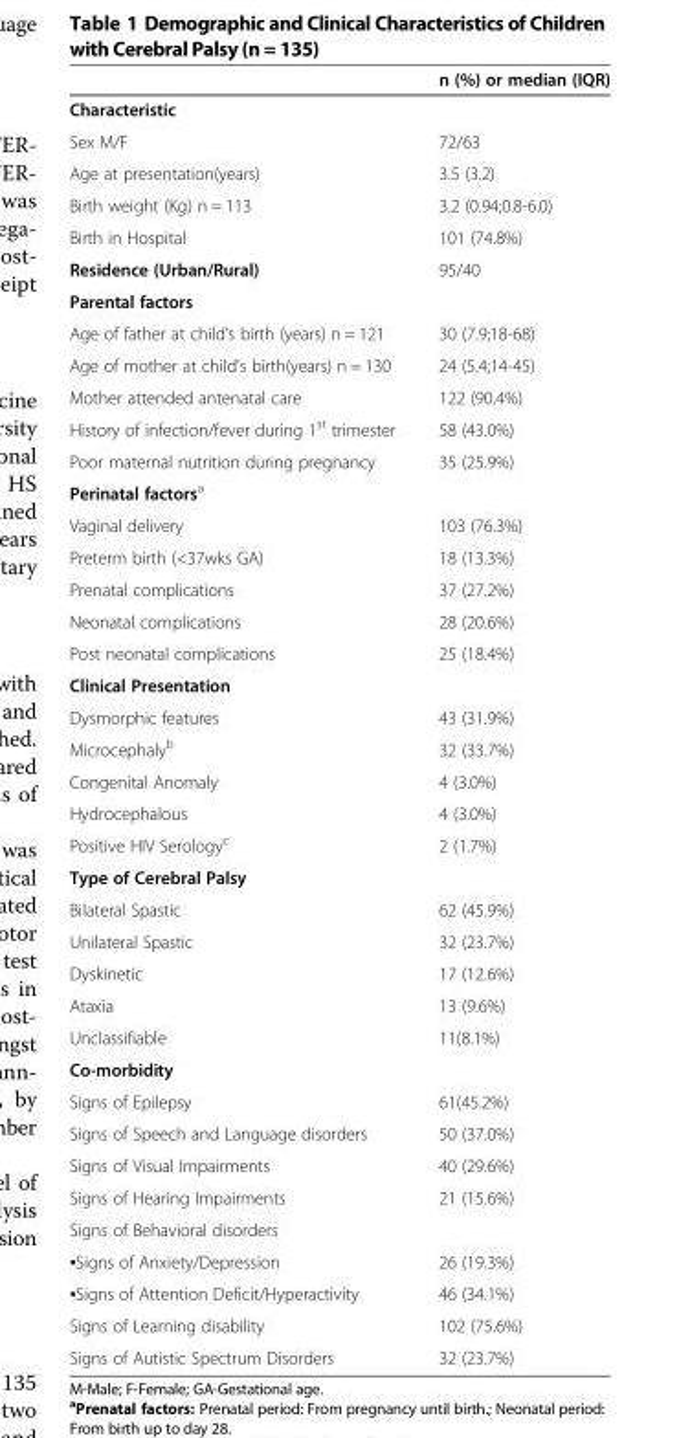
<table><thead><tr><td></td><td>n (%) or median (IQR)</td></tr></thead><tbody><tr><td colspan="2">Characteristic</td></tr><tr><td>Sex M/F</td><td>72/63</td></tr><tr><td>Age at presentation(years)</td><td>3.5 (3.2)</td></tr><tr><td>Birth weight (Kg) n = 113</td><td>3.2 (0.94;0.8-6.0)</td></tr><tr><td>Birth in Hospital</td><td>101 (74.8%)</td></tr><tr><td>Residence (Urban/Rural)</td><td>95/40</td></tr><tr><td colspan="2">Parental factors</td></tr><tr><td>Age of father at child’s birth (years) n = 121</td><td>30 (7.9;18-68)</td></tr><tr><td>Age of mother at child’s birth(years) n = 130</td><td>24 (5.4;14-45)</td></tr><tr><td>Mother attended antenatal care</td><td>122 (90.4%)</td></tr><tr><td>History of infection/fever during 1<sup>st</sup> trimester</td><td>58 (43.0%)</td></tr><tr><td>Poor maternal nutrition during pregnancy</td><td>35 (25.9%)</td></tr><tr><td colspan="2">Perinatal factors<sup>a</sup></td></tr><tr><td>Vaginal delivery</td><td>103 (76.3%)</td></tr><tr><td>Preterm birth (&lt;37wks GA)</td><td>18 (13.3%)</td></tr><tr><td>Prenatal complications</td><td>37 (27.2%)</td></tr><tr><td>Neonatal complications</td><td>28 (20.6%)</td></tr><tr><td>Post neonatal complications</td><td>25 (18.4%)</td></tr><tr><td colspan="2">Clinical Presentation</td></tr><tr><td>Dysmorphic features</td><td>43 (31.9%)</td></tr><tr><td>Microcephaly<sup>b</sup></td><td>32 (33.7%)</td></tr><tr><td>Congenital Anomaly</td><td>4 (3.0%)</td></tr><tr><td>Hydrocephalous</td><td>4 (3.0%)</td></tr><tr><td>Positive HIV Serology<sup>c</sup></td><td>2 (1.7%)</td></tr><tr><td colspan="2">Type of Cerebral Palsy</td></tr><tr><td>Bilateral Spastic</td><td>62 (45.9%)</td></tr><tr><td>Unilateral Spastic</td><td>32 (23.7%)</td></tr><tr><td>Dyskinetic</td><td>17 (12.6%)</td></tr><tr><td>Ataxia</td><td>13 (9.6%)</td></tr><tr><td>Unclassifiable</td><td>11(8.1%)</td></tr><tr><td colspan="2">Co-morbidity</td></tr><tr><td>Signs of Epilepsy</td><td>61(45.2%)</td></tr><tr><td>Signs of Speech and Language disorders</td><td>50 (37.0%)</td></tr><tr><td>Signs of Visual Impairments</td><td>40 (29.6%)</td></tr><tr><td>Signs of Hearing Impairments</td><td>21 (15.6%)</td></tr><tr><td colspan="2">Signs of Behavioral disorders</td></tr><tr><td>▪Signs of Anxiety/Depression</td><td>26 (19.3%)</td></tr><tr><td>▪Signs of Attention Deficit/Hyperactivity</td><td>46 (34.1%)</td></tr><tr><td>Signs of Learning disability</td><td>102 (75.6%)</td></tr><tr><td>Signs of Autistic Spectrum Disorders</td><td>32 (23.7%)</td></tr></tbody></table>